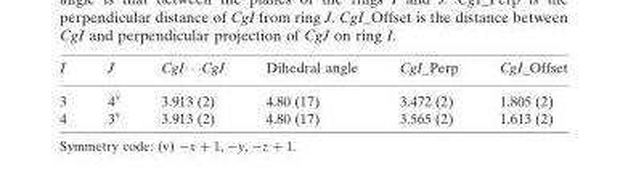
<table><thead><tr><td>I</td><td>J</td><td>CgI� � �CgJ</td><td>Dihedral angle</td><td>CgI_Perp</td><td>CgI_Offset</td></tr></thead><tbody><tr><td>3</td><td>4<sup>v</sup></td><td>3.913 (2)</td><td>4.80 (17)</td><td>3.472 (2)</td><td>1.805 (2)</td></tr><tr><td>4</td><td>3<sup>v</sup></td><td>3.913 (2)</td><td>4.80 (17)</td><td>3.565 (2)</td><td>1.613 (2)</td></tr></tbody></table>